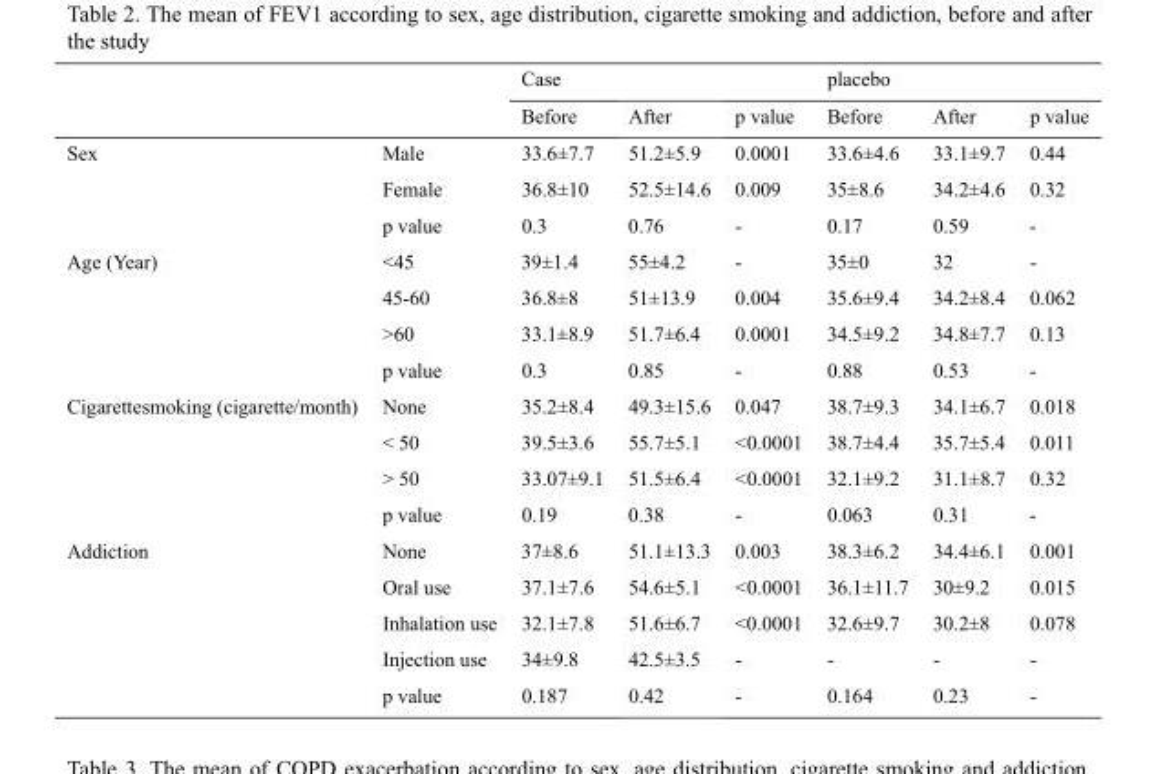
<table><thead><tr><td rowspan="2"></td><td rowspan="2"></td><td colspan="3">Case</td><td colspan="3">placebo</td></tr><tr><td>Before</td><td>After</td><td>p value</td><td>Before</td><td>After</td><td>p value</td></tr></thead><tbody><tr><td rowspan="3">Sex</td><td>Male</td><td>33.6±7.7</td><td>51.2±5.9</td><td>0.0001</td><td>33.6±4.6</td><td>33.1±9.7</td><td>0.44</td></tr><tr><td>Female</td><td>36.8±10</td><td>52.5±14.6</td><td>0.009</td><td>35±8.6</td><td>34.2±4.6</td><td>0.32</td></tr><tr><td>p value</td><td>0.3</td><td>0.76</td><td>-</td><td>0.17</td><td>0.59</td><td>-</td></tr><tr><td rowspan="4">Age (Year)</td><td>&lt;45</td><td>39±1.4</td><td>55±4.2</td><td>-</td><td>35±0</td><td>32</td><td>-</td></tr><tr><td>45-60</td><td>36.8±8</td><td>51±13.9</td><td>0.004</td><td>35.6±9.4</td><td>34.2±8.4</td><td>0.062</td></tr><tr><td>&gt;60</td><td>33.1±8.9</td><td>51.7±6.4</td><td>0.0001</td><td>34.5±9.2</td><td>34.8±7.7</td><td>0.13</td></tr><tr><td>p value</td><td>0.3</td><td>0.85</td><td>-</td><td>0.88</td><td>0.53</td><td>-</td></tr><tr><td rowspan="4">Cigarettesmoking (cigarette/month)</td><td>None</td><td>35.2±8.4</td><td>49.3±15.6</td><td>0.047</td><td>38.7±9.3</td><td>34.1±6.7</td><td>0.018</td></tr><tr><td>&lt; 50</td><td>39.5±3.6</td><td>55.7±5.1</td><td>&lt;0.0001</td><td>38.7±4.4</td><td>35.7±5.4</td><td>0.011</td></tr><tr><td>&gt; 50</td><td>33.07±9.1</td><td>51.5±6.4</td><td>&lt;0.0001</td><td>32.1±9.2</td><td>31.1±8.7</td><td>0.32</td></tr><tr><td>p value</td><td>0.19</td><td>0.38</td><td>-</td><td>0.063</td><td>0.31</td><td>-</td></tr><tr><td rowspan="5">Addiction</td><td>None</td><td>37±8.6</td><td>51.1±13.3</td><td>0.003</td><td>38.3±6.2</td><td>34.4±6.1</td><td>0.001</td></tr><tr><td>Oral use</td><td>37.1±7.6</td><td>54.6±5.1</td><td>&lt;0.0001</td><td>36.1±11.7</td><td>30±9.2</td><td>0.015</td></tr><tr><td>Inhalation use</td><td>32.1±7.8</td><td>51.6±6.7</td><td>&lt;0.0001</td><td>32.6±9.7</td><td>30.2±8</td><td>0.078</td></tr><tr><td>Injection use</td><td>34±9.8</td><td>42.5±3.5</td><td>-</td><td>-</td><td>-</td><td>-</td></tr><tr><td>p value</td><td>0.187</td><td>0.42</td><td>-</td><td>0.164</td><td>0.23</td><td>-</td></tr></tbody></table>